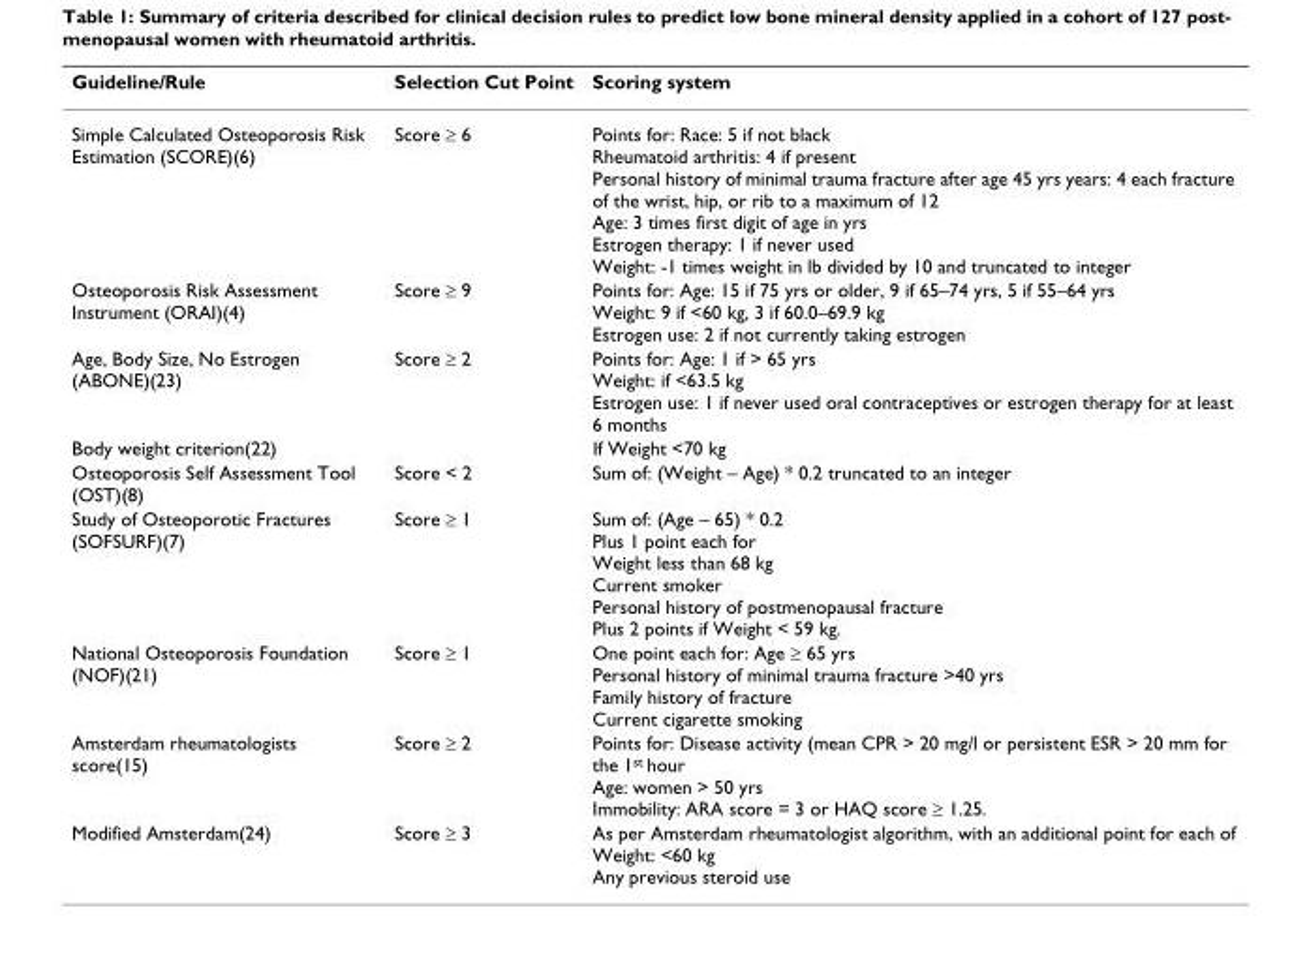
<table><thead><tr><td>Guideline/Rule</td><td>Selection Cut Point</td><td>Scoring system</td></tr></thead><tbody><tr><td>Simple Calculated Osteoporosis Risk Estimation (SCORE)(6)</td><td>Score ≥ 6</td><td>Points for: Race: 5 if not black Rheumatoid arthritis: 4 if present Personal history of minimal trauma fracture after age 45 yrs years: 4 each fracture of the wrist, hip, or rib to a maximum of 12 Age: 3 times first digit of age in yrs Estrogen therapy: 1 if never used Weight: -1 times weight in lb divided by 10 and truncated to integer</td></tr><tr><td>Osteoporosis Risk Assessment Instrument (ORAI)(4)</td><td>Score ≥ 9</td><td>Points for: Age: 15 if 75 yrs or older, 9 if 65–74 yrs, 5 if 55–64 yrs Weight: 9 if &lt;60 kg, 3 if 60.0–69.9 kg Estrogen use: 2 if not currently taking estrogen</td></tr><tr><td>Age, Body Size, No Estrogen (ABONE)(23)</td><td>Score ≥ 2</td><td>Points for: Age: 1 if &gt; 65 yrs Weight: if &lt;63.5 kg Estrogen use: 1 if never used oral contraceptives or estrogen therapy for at least 6 months</td></tr><tr><td>Body weight criterion(22)</td><td></td><td>If Weight &lt;70 kg</td></tr><tr><td>Osteoporosis Self Assessment Tool (OST)(8)</td><td>Score &lt; 2</td><td>Sum of: (Weight – Age) * 0.2 truncated to an integer</td></tr><tr><td>Study of Osteoporotic Fractures (SOFSURF)(7)</td><td>Score ≥ 1</td><td>Sum of: (Age – 65) * 0.2 Plus 1 point each for Weight less than 68 kg Current smoker Personal history of postmenopausal fracture Plus 2 points if Weight &lt; 59 kg.</td></tr><tr><td>National Osteoporosis Foundation (NOF)(21)</td><td>Score ≥ 1</td><td>One point each for: Age ≥ 65 yrs Personal history of minimal trauma fracture &gt;40 yrs Family history of fracture Current cigarette smoking</td></tr><tr><td>Amsterdam rheumatologists score(15)</td><td>Score ≥ 2</td><td>Points for: Disease activity (mean CPR &gt; 20 mg/l or persistent ESR &gt; 20 mm for the 1<sup>st</sup> hour Age: women &gt; 50 yrs Immobility: ARA score = 3 or HAQ score ≥ 1.25.</td></tr><tr><td>Modified Amsterdam(24)</td><td>Score ≥ 3</td><td>As per Amsterdam rheumatologist algorithm, with an additional point for each of Weight: &lt;60 kg Any previous steroid use</td></tr></tbody></table>